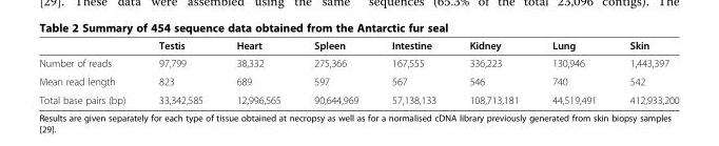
<table><thead><tr><td></td><td>Testis</td><td>Heart</td><td>Spleen</td><td>Intestine</td><td>Kidney</td><td>Lung</td><td>Skin</td></tr></thead><tbody><tr><td>Number of reads</td><td>97,799</td><td>38,332</td><td>275,366</td><td>167,555</td><td>336,223</td><td>130,946</td><td>1,443,397</td></tr><tr><td>Mean read length</td><td>823</td><td>689</td><td>597</td><td>567</td><td>546</td><td>740</td><td>542</td></tr><tr><td>Total base pairs (bp)</td><td>33,342,585</td><td>12,996,565</td><td>90,644,969</td><td>57,138,133</td><td>108,713,181</td><td>44,519,491</td><td>412,933,200</td></tr></tbody></table>